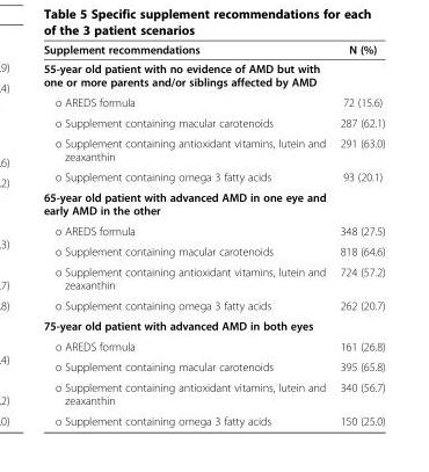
<table><thead><tr><td>Supplement recommendations</td><td>N (%)</td></tr></thead><tbody><tr><td colspan="2">55-year old patient with no evidence of AMD but with one or more parents and/or siblings affected by AMD</td></tr><tr><td>o AREDS formula</td><td>72 (15.6)</td></tr><tr><td>o Supplement containing macular carotenoids</td><td>287 (62.1)</td></tr><tr><td>o Supplement containing antioxidant vitamins, lutein and zeaxanthin</td><td>291 (63.0)</td></tr><tr><td>o Supplement containing omega 3 fatty acids</td><td>93 (20.1)</td></tr><tr><td colspan="2">65-year old patient with advanced AMD in one eye and early AMD in the other</td></tr><tr><td>o AREDS formula</td><td>348 (27.5)</td></tr><tr><td>o Supplement containing macular carotenoids</td><td>818 (64.6)</td></tr><tr><td>o Supplement containing antioxidant vitamins, lutein and zeaxanthin</td><td>724 (57.2)</td></tr><tr><td>o Supplement containing omega 3 fatty acids</td><td>262 (20.7)</td></tr><tr><td colspan="2">75-year old patient with advanced AMD in both eyes</td></tr><tr><td>o AREDS formula</td><td>161 (26.8)</td></tr><tr><td>o Supplement containing macular carotenoids</td><td>395 (65.8)</td></tr><tr><td>o Supplement containing antioxidant vitamins, lutein and zeaxanthin</td><td>340 (56.7)</td></tr><tr><td>o Supplement containing omega 3 fatty acids</td><td>150 (25.0)</td></tr></tbody></table>